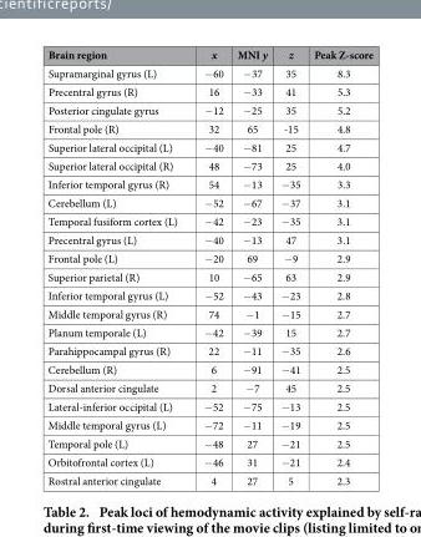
<table><thead><tr><td>Brain region</td><td>x</td><td>MNI y</td><td>z</td><td>Peak Z-score</td></tr></thead><tbody><tr><td>Supramarginal gyrus (L)</td><td>− 60</td><td>− 37</td><td>35</td><td>8.3</td></tr><tr><td>Precentral gyrus (R)</td><td>16</td><td>− 33</td><td>41</td><td>5.3</td></tr><tr><td>Posterior cingulate gyrus</td><td>− 12</td><td>− 25</td><td>35</td><td>5.2</td></tr><tr><td>Frontal pole (R)</td><td>32</td><td>65</td><td>-15</td><td>4.8</td></tr><tr><td>Superior lateral occipital (L)</td><td>− 40</td><td>− 81</td><td>25</td><td>4.7</td></tr><tr><td>Superior lateral occipital (R)</td><td>48</td><td>− 73</td><td>25</td><td>4.0</td></tr><tr><td>Inferior temporal gyrus (R)</td><td>54</td><td>− 13</td><td>− 35</td><td>3.3</td></tr><tr><td>Cerebellum (L)</td><td>− 52</td><td>− 67</td><td>− 37</td><td>3.1</td></tr><tr><td>Temporal fusiform cortex (L)</td><td>− 42</td><td>− 23</td><td>− 35</td><td>3.1</td></tr><tr><td>Precentral gyrus (L)</td><td>− 40</td><td>− 13</td><td>47</td><td>3.1</td></tr><tr><td>Frontal pole (L)</td><td>− 20</td><td>69</td><td>− 9</td><td>2.9</td></tr><tr><td>Superior parietal (R)</td><td>10</td><td>− 65</td><td>63</td><td>2.9</td></tr><tr><td>Inferior temporal gyrus (L)</td><td>− 52</td><td>− 43</td><td>− 23</td><td>2.8</td></tr><tr><td>Middle temporal gyrus (R)</td><td>74</td><td>− 1</td><td>− 15</td><td>2.7</td></tr><tr><td>Planum temporale (L)</td><td>− 42</td><td>− 39</td><td>15</td><td>2.7</td></tr><tr><td>Parahippocampal gyrus (R)</td><td>22</td><td>− 11</td><td>− 35</td><td>2.6</td></tr><tr><td>Cerebellum (R)</td><td>6</td><td>− 91</td><td>− 41</td><td>2.5</td></tr><tr><td>Dorsal anterior cingulate</td><td>2</td><td>− 7</td><td>45</td><td>2.5</td></tr><tr><td>Lateral-inferior occipital (L)</td><td>− 52</td><td>− 75</td><td>− 13</td><td>2.5</td></tr><tr><td>Middle temporal gyrus (L)</td><td>− 72</td><td>− 11</td><td>− 19</td><td>2.5</td></tr><tr><td>Temporal pole (L)</td><td>− 48</td><td>27</td><td>− 21</td><td>2.5</td></tr><tr><td>Orbitofrontal cortex (L)</td><td>− 46</td><td>31</td><td>− 21</td><td>2.4</td></tr><tr><td>Rostral anterior cingulate</td><td>4</td><td>27</td><td>5</td><td>2.3</td></tr></tbody></table>